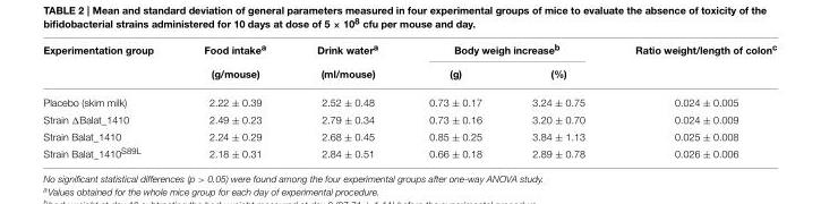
<table><thead><tr><td rowspan="2">Experimentation group</td><td rowspan="2">Food intake<sup>a</sup> (g/mouse)</td><td rowspan="2">Drink water<sup>a</sup> (ml/mouse)</td><td colspan="2">Body weigh increase<sup>b</sup></td><td rowspan="2">Ratio weight/length of colon<sup>c</sup></td></tr><tr><td>(g)</td><td>(%)</td></tr></thead><tbody><tr><td>Placebo (skim milk)</td><td>2.22 ± 0.39</td><td>2.52 ± 0.48</td><td>0.73 ± 0.17</td><td>3.24 ± 0.75</td><td>0.024 ± 0.005</td></tr><tr><td>Strain ΔBalat_1410</td><td>2.49 ± 0.23</td><td>2.79 ± 0.34</td><td>0.73 ± 0.16</td><td>3.20 ± 0.70</td><td>0.024 ± 0.009</td></tr><tr><td>Strain Balat_1410</td><td>2.24 ± 0.29</td><td>2.68 ± 0.45</td><td>0.85 ± 0.25</td><td>3.84 ± 1.13</td><td>0.025 ± 0.008</td></tr><tr><td>Strain Balat_1410<sup>S89L</sup></td><td>2.18 ± 0.31</td><td>2.84 ± 0.51</td><td>0.66 ± 0.18</td><td>2.89 ± 0.78</td><td>0.026 ± 0.006</td></tr></tbody></table>